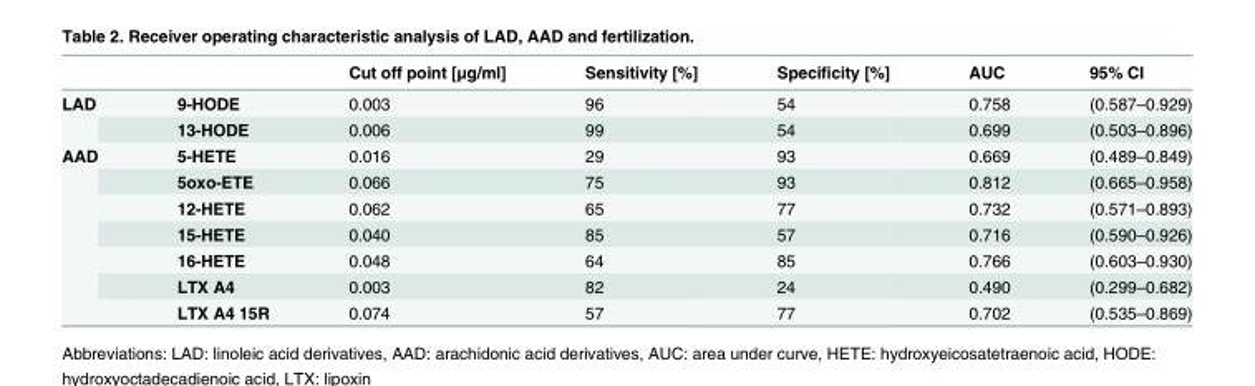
<table><thead><tr><td></td><td></td><td>Cut off point [μg/ml]</td><td>Sensitivity [%]</td><td>Specificity [%]</td><td>AUC</td><td>95% CI</td></tr></thead><tbody><tr><td rowspan="2">LAD</td><td>9-HODE</td><td>0.003</td><td>96</td><td>54</td><td>0.758</td><td>(0.587–0.929)</td></tr><tr><td>13-HODE</td><td>0.006</td><td>99</td><td>54</td><td>0.699</td><td>(0.503–0.896)</td></tr><tr><td rowspan="7">AAD</td><td>5-HETE</td><td>0.016</td><td>29</td><td>93</td><td>0.669</td><td>(0.489–0.849)</td></tr><tr><td>5oxo-ETE</td><td>0.066</td><td>75</td><td>93</td><td>0.812</td><td>(0.665–0.958)</td></tr><tr><td>12-HETE</td><td>0.062</td><td>65</td><td>77</td><td>0.732</td><td>(0.571–0.893)</td></tr><tr><td>15-HETE</td><td>0.040</td><td>85</td><td>57</td><td>0.716</td><td>(0.590–0.926)</td></tr><tr><td>16-HETE</td><td>0.048</td><td>64</td><td>85</td><td>0.766</td><td>(0.603–0.930)</td></tr><tr><td>LTX A4</td><td>0.003</td><td>82</td><td>24</td><td>0.490</td><td>(0.299–0.682)</td></tr><tr><td>LTX A4 15R</td><td>0.074</td><td>57</td><td>77</td><td>0.702</td><td>(0.535–0.869)</td></tr></tbody></table>